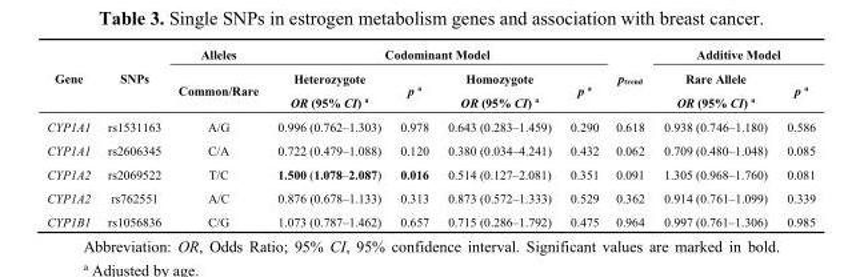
<table><thead><tr><td rowspan="2">Gene</td><td rowspan="2">SNPs</td><td rowspan="2">Alleles Common/Rare</td><td colspan="4">Codominant Model</td><td rowspan="2">p<sub>trend</sub></td><td colspan="2">Additive Model</td></tr><tr><td>Heterozygote OR (95% CI) <sup>a</sup></td><td>p <sup>a</sup></td><td>Homozygote OR (95% CI) <sup>a</sup></td><td>p <sup>a</sup></td><td>Rare Allele OR (95% CI) <sup>a</sup></td><td>p <sup>a</sup></td></tr></thead><tbody><tr><td>CYP1A1</td><td>rs1531163</td><td>A/G</td><td>0.996 (0.762–1.303)</td><td>0.978</td><td>0.643 (0.283–1.459)</td><td>0.290</td><td>0.618</td><td>0.938 (0.746–1.180)</td><td>0.586</td></tr><tr><td>CYP1A1</td><td>rs2606345</td><td>C/A</td><td>0.722 (0.479–1.088)</td><td>0.120</td><td>0.380 (0.034–4.241)</td><td>0.432</td><td>0.062</td><td>0.709 (0.480–1.048)</td><td>0.085</td></tr><tr><td>CYP1A2</td><td>rs2069522</td><td>T/C</td><td>1.500 (1.078–2.087)</td><td>0.016</td><td>0.514 (0.127–2.081)</td><td>0.351</td><td>0.091</td><td>1.305 (0.968–1.760)</td><td>0.081</td></tr><tr><td>CYP1A2</td><td>rs762551</td><td>A/C</td><td>0.876 (0.678–1.133)</td><td>0.313</td><td>0.873 (0.572–1.333)</td><td>0.529</td><td>0.362</td><td>0.914 (0.761–1.099)</td><td>0.339</td></tr><tr><td>CYP1B1</td><td>rs1056836</td><td>C/G</td><td>1.073 (0.787–1.462)</td><td>0.657</td><td>0.715 (0.286–1.792)</td><td>0.475</td><td>0.964</td><td>0.997 (0.761–1.306)</td><td>0.985</td></tr></tbody></table>